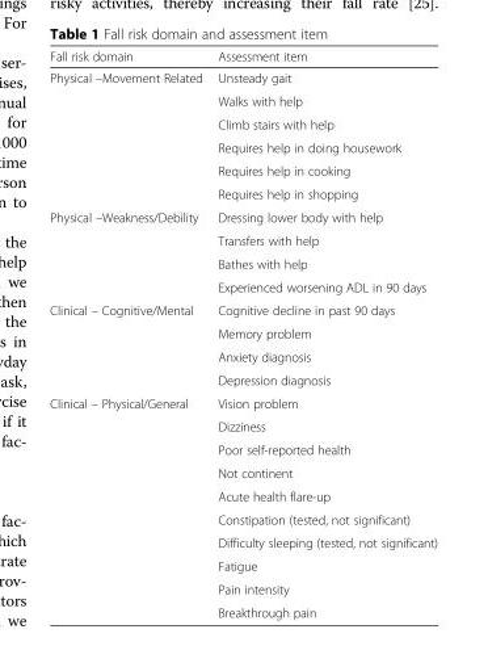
<table><thead><tr><td>Fall risk domain</td><td>Assessment item</td></tr></thead><tbody><tr><td rowspan="6">Physical –Movement Related</td><td>Unsteady gait</td></tr><tr><td>Walks with help</td></tr><tr><td>Climb stairs with help</td></tr><tr><td>Requires help in doing housework</td></tr><tr><td>Requires help in cooking</td></tr><tr><td>Requires help in shopping</td></tr><tr><td rowspan="4">Physical –Weakness/Debility</td><td>Dressing lower body with help</td></tr><tr><td>Transfers with help</td></tr><tr><td>Bathes with help</td></tr><tr><td>Experienced worsening ADL in 90 days</td></tr><tr><td rowspan="4">Clinical – Cognitive/Mental</td><td>Cognitive decline in past 90 days</td></tr><tr><td>Memory problem</td></tr><tr><td>Anxiety diagnosis</td></tr><tr><td>Depression diagnosis</td></tr><tr><td rowspan="10">Clinical – Physical/General</td><td>Vision problem</td></tr><tr><td>Dizziness</td></tr><tr><td>Poor self-reported health</td></tr><tr><td>Not continent</td></tr><tr><td>Acute health flare-up</td></tr><tr><td>Constipation (tested, not significant)</td></tr><tr><td>Difficulty sleeping (tested, not significant)</td></tr><tr><td>Fatigue</td></tr><tr><td>Pain intensity</td></tr><tr><td>Breakthrough pain</td></tr></tbody></table>